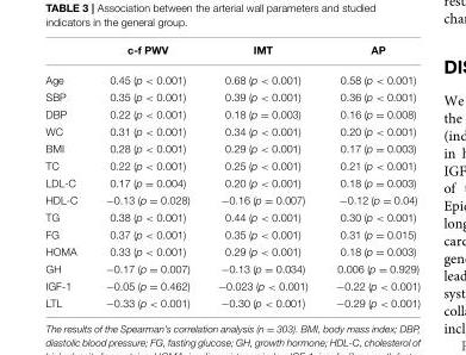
<table><thead><tr><td></td><td>c-f PWV</td><td>IMT</td><td>AP</td></tr></thead><tbody><tr><td>Age</td><td>0.45 (p &lt; 0.001)</td><td>0.68 (p &lt; 0.001)</td><td>0.58 (p &lt; 0.001)</td></tr><tr><td>SBP</td><td>0.35 (p &lt; 0.001)</td><td>0.39 (p &lt; 0.001)</td><td>0.36 (p &lt; 0.001)</td></tr><tr><td>DBP</td><td>0.22 (p &lt; 0.001)</td><td>0.18 (p = 0.003)</td><td>0.16 (p = 0.008)</td></tr><tr><td>WC</td><td>0.31 (p &lt; 0.001)</td><td>0.34 (p &lt; 0.001)</td><td>0.20 (p &lt; 0.001)</td></tr><tr><td>BMI</td><td>0.28 (p &lt; 0.001)</td><td>0.29 (p &lt; 0.001)</td><td>0.17 (p = 0.003)</td></tr><tr><td>TC</td><td>0.22 (p &lt; 0.001)</td><td>0.25 (p &lt; 0.001)</td><td>0.21 (p &lt; 0.001)</td></tr><tr><td>LDL-C</td><td>0.17 (p = 0.004)</td><td>0.20 (p &lt; 0.001)</td><td>0.18 (p = 0.003)</td></tr><tr><td>HDL-C</td><td>−0.13 (p = 0.028)</td><td>−0.16 (p = 0.007)</td><td>−0.12 (p = 0.04)</td></tr><tr><td>TG</td><td>0.38 (p &lt; 0.001)</td><td>0.44 (p &lt; 0.001)</td><td>0.30 (p &lt; 0.001)</td></tr><tr><td>FG</td><td>0.37 (p &lt; 0.001)</td><td>0.35 (p &lt; 0.001)</td><td>0.31 (p = 0.015)</td></tr><tr><td>HOMA</td><td>0.33 (p &lt; 0.001)</td><td>0.29 (p &lt; 0.001)</td><td>0.18 (p = 0.003)</td></tr><tr><td>GH</td><td>−0.17 (p = 0.007)</td><td>−0.13 (p = 0.034)</td><td>0.006 (p = 0.929)</td></tr><tr><td>IGF-1</td><td>−0.05 (p = 0.462)</td><td>−0.023 (p &lt; 0.001)</td><td>−0.22 (p &lt; 0.001)</td></tr><tr><td>LTL</td><td>−0.33 (p &lt; 0.001)</td><td>−0.30 (p &lt; 0.001)</td><td>−0.29 (p &lt; 0.001)</td></tr></tbody></table>